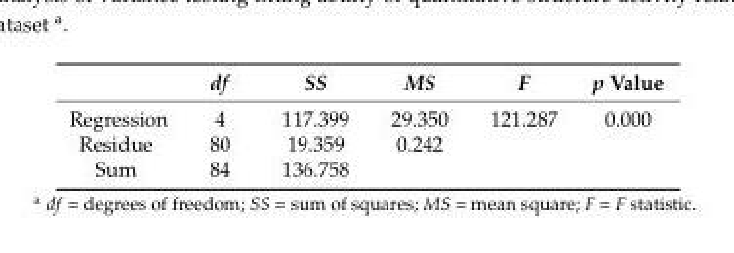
<table><thead><tr><td></td><td>df</td><td>SS</td><td>MS</td><td>F</td><td>p Value</td></tr></thead><tbody><tr><td>Regression</td><td>4</td><td>117.399</td><td>29.350</td><td>121.287</td><td>0.000</td></tr><tr><td>Residue</td><td>80</td><td>19.359</td><td>0.242</td><td></td><td></td></tr><tr><td>Sum</td><td>84</td><td>136.758</td><td></td><td></td><td></td></tr></tbody></table>